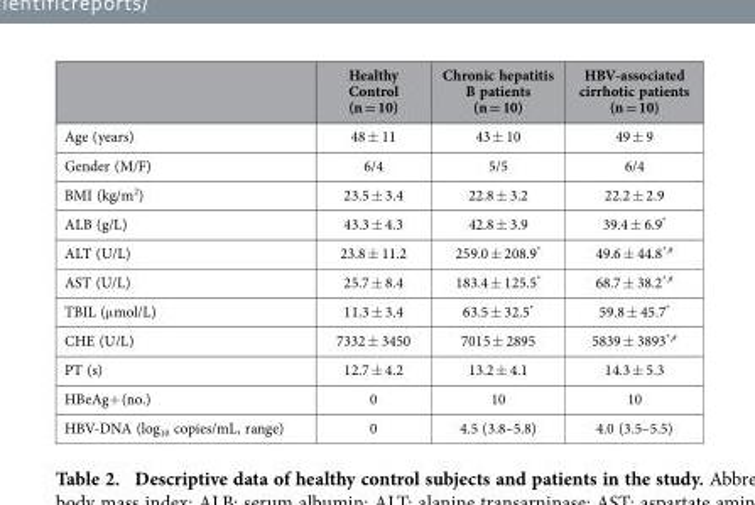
<table><thead><tr><td></td><td>Healthy Control (n = 10)</td><td>Chronic hepatitis B patients (n = 10)</td><td>HBV-associated cirrhotic patients (n = 10)</td></tr></thead><tbody><tr><td>Age (years)</td><td>48 ± 11</td><td>43 ± 10</td><td>49 ± 9</td></tr><tr><td>Gender (M/F)</td><td>6/4</td><td>5/5</td><td>6/4</td></tr><tr><td>BMI (kg/m<sup>2</sup>)</td><td>23.5 ± 3.4</td><td>22.8 ± 3.2</td><td>22.2 ± 2.9</td></tr><tr><td>ALB (g/L)</td><td>43.3 ± 4.3</td><td>42.8 ± 3.9</td><td>39.4 ± 6.9*</td></tr><tr><td>ALT (U/L)</td><td>23.8 ± 11.2</td><td>259.0 ± 208.9*</td><td>49.6 ± 44.8<sup>*,#</sup></td></tr><tr><td>AST (U/L)</td><td>25.7 ± 8.4</td><td>183.4 ± 125.5*</td><td>68.7 ± 38.2<sup>*,#</sup></td></tr><tr><td>TBIL (μ mol/L)</td><td>11.3 ± 3.4</td><td>63.5 ± 32.5*</td><td>59.8 ± 45.7*</td></tr><tr><td>CHE (U/L)</td><td>7332 ± 3450</td><td>7015 ± 2895</td><td>5839 ± 3893<sup>*,#</sup></td></tr><tr><td>PT (s)</td><td>12.7 ± 4.2</td><td>13.2 ± 4.1</td><td>14.3 ± 5.3</td></tr><tr><td>HBeAg+ (no.)</td><td>0</td><td>10</td><td>10</td></tr><tr><td>HBV-DNA (log<sub>10</sub> copies/mL, range)</td><td>0</td><td>4.5 (3.8–5.8)</td><td>4.0 (3.5–5.5)</td></tr></tbody></table>